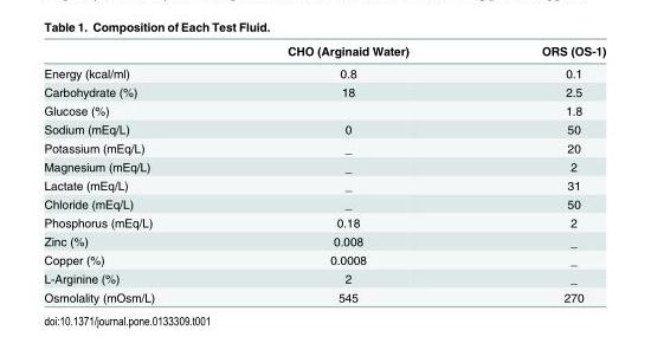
<table><thead><tr><td></td><td>CHO (Arginaid Water)</td><td>ORS (OS-1)</td></tr></thead><tbody><tr><td>Energy (kcal/ml)</td><td>0.8</td><td>0.1</td></tr><tr><td>Carbohydrate (%)</td><td>18</td><td>2.5</td></tr><tr><td>Glucose (%)</td><td></td><td>1.8</td></tr><tr><td>Sodium (mEq/L)</td><td>0</td><td>50</td></tr><tr><td>Potassium (mEq/L)</td><td>_</td><td>20</td></tr><tr><td>Magnesium (mEq/L)</td><td>_</td><td>2</td></tr><tr><td>Lactate (mEq/L)</td><td>_</td><td>31</td></tr><tr><td>Chloride (mEq/L)</td><td>_</td><td>50</td></tr><tr><td>Phosphorus (mEq/L)</td><td>0.18</td><td>2</td></tr><tr><td>Zinc (%)</td><td>0.008</td><td>_</td></tr><tr><td>Copper (%)</td><td>0.0008</td><td>_</td></tr><tr><td>L-Arginine (%)</td><td>2</td><td>_</td></tr><tr><td>Osmolality (mOsm/L)</td><td>545</td><td>270</td></tr></tbody></table>